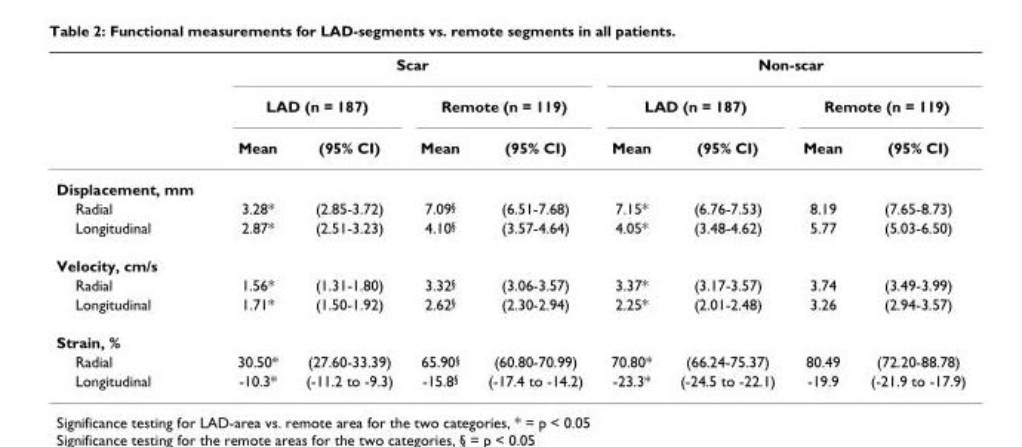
<table><thead><tr><td rowspan="3"></td><td colspan="4">Scar</td><td colspan="4">Non-scar</td></tr><tr><td colspan="2">LAD (n = 187)</td><td colspan="2">Remote (n = 119)</td><td colspan="2">LAD (n = 187)</td><td colspan="2">Remote (n = 119)</td></tr><tr><td>Mean</td><td>(95% CI)</td><td>Mean</td><td>(95% CI)</td><td>Mean</td><td>(95% CI)</td><td>Mean</td><td>(95% CI)</td></tr></thead><tbody><tr><td colspan="9">Displacement, mm</td></tr><tr><td>Radial</td><td>3.28*</td><td>(2.85-3.72)</td><td>7.09<sup>§</sup></td><td>(6.51-7.68)</td><td>7.15*</td><td>(6.76-7.53)</td><td>8.19</td><td>(7.65-8.73)</td></tr><tr><td>Longitudinal</td><td>2.87*</td><td>(2.51-3.23)</td><td>4.10<sup>§</sup></td><td>(3.57-4.64)</td><td>4.05*</td><td>(3.48-4.62)</td><td>5.77</td><td>(5.03-6.50)</td></tr><tr><td colspan="9">Velocity, cm/s</td></tr><tr><td>Radial</td><td>1.56*</td><td>(1.31-1.80)</td><td>3.32<sup>§</sup></td><td>(3.06-3.57)</td><td>3.37*</td><td>(3.17-3.57)</td><td>3.74</td><td>(3.49-3.99)</td></tr><tr><td>Longitudinal</td><td>1.71*</td><td>(1.50-1.92)</td><td>2.62<sup>§</sup></td><td>(2.30-2.94)</td><td>2.25*</td><td>(2.01-2.48)</td><td>3.26</td><td>(2.94-3.57)</td></tr><tr><td colspan="9">Strain, %</td></tr><tr><td>Radial</td><td>30.50*</td><td>(27.60-33.39)</td><td>65.90<sup>§</sup></td><td>(60.80-70.99)</td><td>70.80*</td><td>(66.24-75.37)</td><td>80.49</td><td>(72.20-88.78)</td></tr><tr><td>Longitudinal</td><td>-10.3*</td><td>(-11.2 to -9.3)</td><td>-15.8<sup>§</sup></td><td>(-17.4 to -14.2)</td><td>-23.3*</td><td>(-24.5 to -22.1)</td><td>-19.9</td><td>(-21.9 to -17.9)</td></tr></tbody></table>